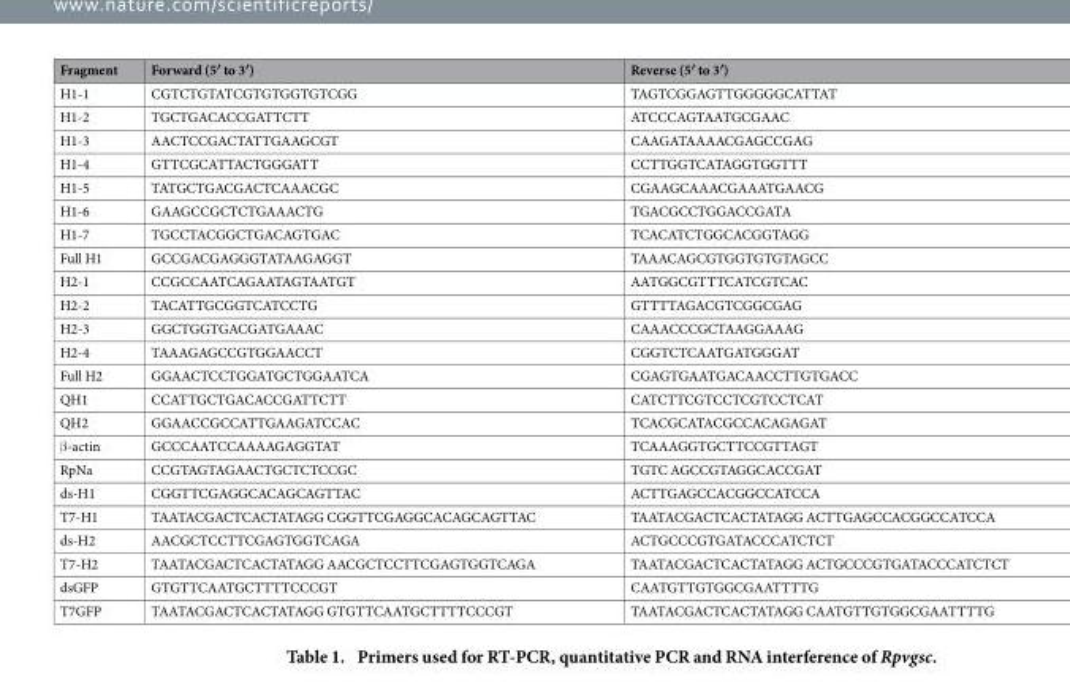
<table><thead><tr><td>Fragment</td><td>Forward (5′ to 3′)</td><td>Reverse (5′ to 3′)</td></tr></thead><tbody><tr><td>H1-1</td><td>CGTCTGTATCGTGTGGTGTCGG</td><td>TAGTCGGAGTTGGGGGCATTAT</td></tr><tr><td>H1-2</td><td>TGCTGACACCGATTCTT</td><td>ATCCCAGTAATGCGAAC</td></tr><tr><td>H1-3</td><td>AACTCCGACTATTGAAGCGT</td><td>CAAGATAAAACGAGCCGAG</td></tr><tr><td>H1-4</td><td>GTTCGCATTACTGGGATT</td><td>CCTTGGTCATAGGTGGTTT</td></tr><tr><td>H1-5</td><td>TATGCTGACGACTCAAACGC</td><td>CGAAGCAAACGAAATGAACG</td></tr><tr><td>H1-6</td><td>GAAGCCGCTCTGAAACTG</td><td>TGACGCCTGGACCGATA</td></tr><tr><td>H1-7</td><td>TGCCTACGGCTGACAGTGAC</td><td>TCACATCTGGCACGGTAGG</td></tr><tr><td>Full H1</td><td>GCCGACGAGGGTATAAGAGGT</td><td>TAAACAGCGTGGTGTGTAGCC</td></tr><tr><td>H2-1</td><td>CCGCCAATCAGAATAGTAATGT</td><td>AATGGCGTTTCATCGTCAC</td></tr><tr><td>H2-2</td><td>TACATTGCGGTCATCCTG</td><td>GTTTTAGACGTCGGCGAG</td></tr><tr><td>H2-3</td><td>GGCTGGTGACGATGAAAC</td><td>CAAACCCGCTAAGGAAAG</td></tr><tr><td>H2-4</td><td>TAAAGAGCCGTGGAACCT</td><td>CGGTCTCAATGATGGGAT</td></tr><tr><td>Full H2</td><td>GGAACTCCTGGATGCTGGAATCA</td><td>CGAGTGAATGACAACCTTGTGACC</td></tr><tr><td>QH1</td><td>CCATTGCTGACACCGATTCTT</td><td>CATCTTCGTCCTCGTCCTCAT</td></tr><tr><td>QH2</td><td>GGAACCGCCATTGAAGATCCAC</td><td>TCACGCATACGCCACAGAGAT</td></tr><tr><td>β -actin</td><td>GCCCAATCCAAAAGAGGTAT</td><td>TCAAAGGTGCTTCCGTTAGT</td></tr><tr><td>RpNa</td><td>CCGTAGTAGAACTGCTCTCCGC</td><td>TGTC AGCCGTAGGCACCGAT</td></tr><tr><td>ds-H1</td><td>CGGTTCGAGGCACAGCAGTTAC</td><td>ACTTGAGCCACGGCCATCCA</td></tr><tr><td>T7-H1</td><td>TAATACGACTCACTATAGG CGGTTCGAGGCACAGCAGTTAC</td><td>TAATACGACTCACTATAGG ACTTGAGCCACGGCCATCCA</td></tr><tr><td>ds-H2</td><td>AACGCTCCTTCGAGTGGTCAGA</td><td>ACTGCCCGTGATACCCATCTCT</td></tr><tr><td>T7-H2</td><td>TAATACGACTCACTATAGG AACGCTCCTTCGAGTGGTCAGA</td><td>TAATACGACTCACTATAGG ACTGCCCGTGATACCCATCTCT</td></tr><tr><td>dsGFP</td><td>GTGTTCAATGCTTTTCCCGT</td><td>CAATGTTGTGGCGAATTTTG</td></tr><tr><td>T7GFP</td><td>TAATACGACTCACTATAGG GTGTTCAATGCTTTTCCCGT</td><td>TAATACGACTCACTATAGG CAATGTTGTGGCGAATTTTG</td></tr></tbody></table>